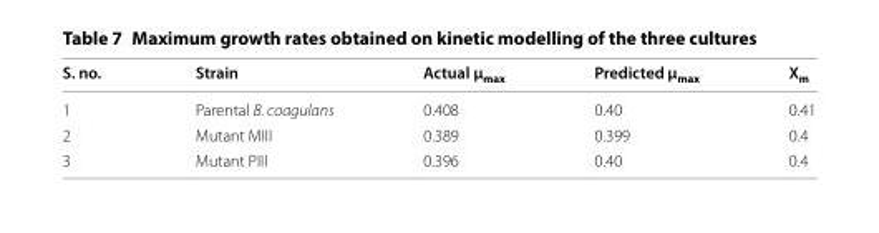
<table><thead><tr><td>S. no.</td><td>Strain</td><td>Actual µ<sub>max</sub></td><td>Predicted µ<sub>max</sub></td><td>X<sub>m</sub></td></tr></thead><tbody><tr><td>1</td><td>Parental B. coagulans</td><td>0.408</td><td>0.40</td><td>0.41</td></tr><tr><td>2</td><td>Mutant MIII</td><td>0.389</td><td>0.399</td><td>0.4</td></tr><tr><td>3</td><td>Mutant PIII</td><td>0.396</td><td>0.40</td><td>0.4</td></tr></tbody></table>